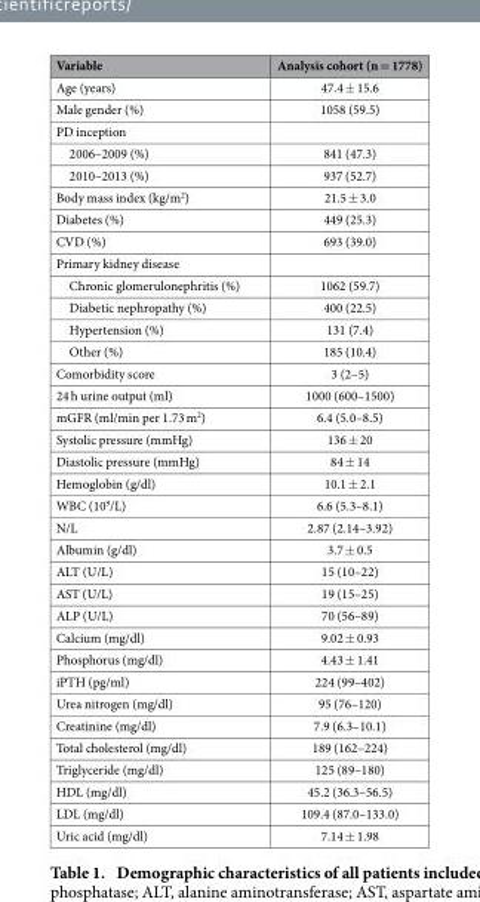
<table><thead><tr><td>Variable</td><td>Analysis cohort (n = 1778)</td></tr></thead><tbody><tr><td>Age (years)</td><td>47.4 ± 15.6</td></tr><tr><td>Male gender (%)</td><td>1058 (59.5)</td></tr><tr><td colspan="2">PD inception</td></tr><tr><td>2006–2009 (%)</td><td>841 (47.3)</td></tr><tr><td>2010–2013 (%)</td><td>937 (52.7)</td></tr><tr><td>Body mass index (kg/m<sup>2</sup>)</td><td>21.5 ± 3.0</td></tr><tr><td>Diabetes (%)</td><td>449 (25.3)</td></tr><tr><td>CVD (%)</td><td>693 (39.0)</td></tr><tr><td colspan="2">Primary kidney disease</td></tr><tr><td>Chronic glomerulonephritis (%)</td><td>1062 (59.7)</td></tr><tr><td>Diabetic nephropathy (%)</td><td>400 (22.5)</td></tr><tr><td>Hypertension (%)</td><td>131 (7.4)</td></tr><tr><td>Other (%)</td><td>185 (10.4)</td></tr><tr><td>Comorbidity score</td><td>3 (2–5)</td></tr><tr><td>24 h urine output (ml)</td><td>1000 (600–1500)</td></tr><tr><td>mGFR (ml/min per 1.73 m<sup>2</sup>)</td><td>6.4 (5.0–8.5)</td></tr><tr><td>Systolic pressure (mmHg)</td><td>136 ± 20</td></tr><tr><td>Diastolic pressure (mmHg)</td><td>84 ± 14</td></tr><tr><td>Hemoglobin (g/dl)</td><td>10.1 ± 2.1</td></tr><tr><td>WBC (10<sup>9</sup>/L)</td><td>6.6 (5.3–8.1)</td></tr><tr><td>N/L</td><td>2.87 (2.14–3.92)</td></tr><tr><td>Albumin (g/dl)</td><td>3.7 ± 0.5</td></tr><tr><td>ALT (U/L)</td><td>15 (10–22)</td></tr><tr><td>AST (U/L)</td><td>19 (15–25)</td></tr><tr><td>ALP (U/L)</td><td>70 (56–89)</td></tr><tr><td>Calcium (mg/dl)</td><td>9.02 ± 0.93</td></tr><tr><td>Phosphorus (mg/dl)</td><td>4.43 ± 1.41</td></tr><tr><td>iPTH (pg/ml)</td><td>224 (99–402)</td></tr><tr><td>Urea nitrogen (mg/dl)</td><td>95 (76–120)</td></tr><tr><td>Creatinine (mg/dl)</td><td>7.9 (6.3–10.1)</td></tr><tr><td>Total cholesterol (mg/dl)</td><td>189 (162–224)</td></tr><tr><td>Triglyceride (mg/dl)</td><td>125 (89–180)</td></tr><tr><td>HDL (mg/dl)</td><td>45.2 (36.3–56.5)</td></tr><tr><td>LDL (mg/dl)</td><td>109.4 (87.0–133.0)</td></tr><tr><td>Uric acid (mg/dl)</td><td>7.14 ± 1.98</td></tr></tbody></table>